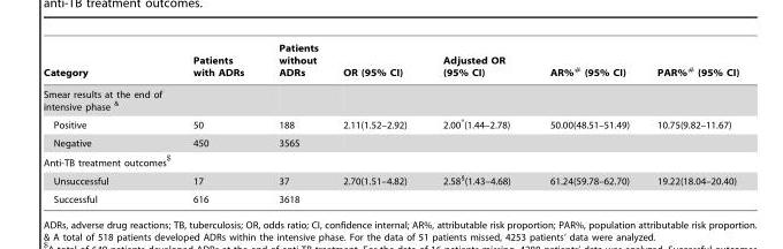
<table><thead><tr><td>Category</td><td>Patients with ADRs</td><td>Patients without ADRs</td><td>OR (95% CI)</td><td>Adjusted OR (95% CI)</td><td>AR%# (95% CI)</td><td>PAR%# (95% CI)</td></tr></thead><tbody><tr><td colspan="7">Smear results at the end of intensive phase <sup>&amp;</sup></td></tr><tr><td>Positive</td><td>50</td><td>188</td><td>2.11(1.52–2.92)</td><td>2.00*(1.44–2.78)</td><td>50.00(48.51–51.49)</td><td>10.75(9.82–11.67)</td></tr><tr><td>Negative</td><td>450</td><td>3565</td><td></td><td></td><td></td><td></td></tr><tr><td colspan="7">Anti-TB treatment outcomes$</td></tr><tr><td>Unsuccessful</td><td>17</td><td>37</td><td>2.70(1.51–4.82)</td><td>2.58§(1.43–4.68)</td><td>61.24(59.78–62.70)</td><td>19.22(18.04–20.40)</td></tr><tr><td>Successful</td><td>616</td><td>3618</td><td></td><td></td><td></td><td></td></tr></tbody></table>